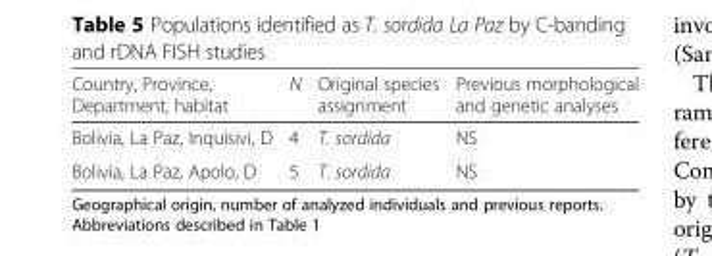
<table><thead><tr><td>Country, Province, Department, habitat</td><td>N</td><td>Original species assignment</td><td>Previous morphological and genetic analyses</td></tr></thead><tbody><tr><td>Bolivia, La Paz, Inquisivi, D</td><td>4</td><td>T. sordida</td><td>NS</td></tr><tr><td>Bolivia, La Paz, Apolo, D</td><td>5</td><td>T. sordida</td><td>NS</td></tr></tbody></table>